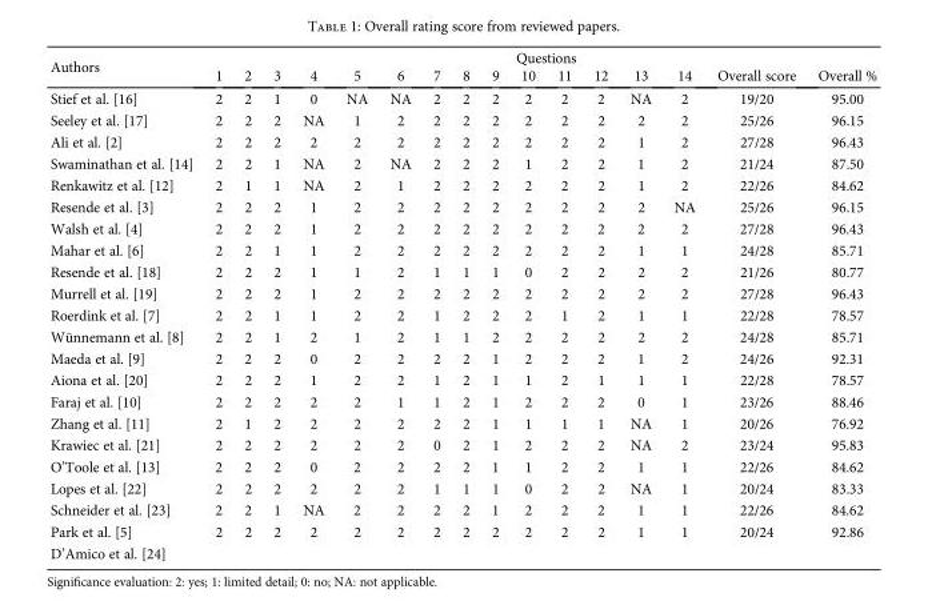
<table><thead><tr><td rowspan="2">Authors</td><td colspan="16">Questions</td></tr><tr><td>1</td><td>2</td><td>3</td><td>4</td><td>5</td><td>6</td><td>7</td><td>8</td><td>9</td><td>10</td><td>11</td><td>12</td><td>13</td><td>14</td><td>Overall score</td><td>Overall %</td></tr></thead><tbody><tr><td>Stief et al. [16]</td><td>2</td><td>2</td><td>1</td><td>0</td><td>NA</td><td>NA</td><td>2</td><td>2</td><td>2</td><td>2</td><td>2</td><td>2</td><td>NA</td><td>2</td><td>19/20</td><td>95.00</td></tr><tr><td>Seeley et al. [17]</td><td>2</td><td>2</td><td>2</td><td>NA</td><td>1</td><td>2</td><td>2</td><td>2</td><td>2</td><td>2</td><td>2</td><td>2</td><td>2</td><td>2</td><td>25/26</td><td>96.15</td></tr><tr><td>Ali et al. [2]</td><td>2</td><td>2</td><td>2</td><td>2</td><td>2</td><td>2</td><td>2</td><td>2</td><td>2</td><td>2</td><td>2</td><td>2</td><td>1</td><td>2</td><td>27/28</td><td>96.43</td></tr><tr><td>Swaminathan et al. [14]</td><td>2</td><td>2</td><td>1</td><td>NA</td><td>2</td><td>NA</td><td>2</td><td>2</td><td>2</td><td>1</td><td>2</td><td>2</td><td>1</td><td>2</td><td>21/24</td><td>87.50</td></tr><tr><td>Renkawitz et al. [12]</td><td>2</td><td>1</td><td>1</td><td>NA</td><td>2</td><td>1</td><td>2</td><td>2</td><td>2</td><td>2</td><td>2</td><td>2</td><td>1</td><td>2</td><td>22/26</td><td>84.62</td></tr><tr><td>Resende et al. [3]</td><td>2</td><td>2</td><td>2</td><td>1</td><td>2</td><td>2</td><td>2</td><td>2</td><td>2</td><td>2</td><td>2</td><td>2</td><td>2</td><td>NA</td><td>25/26</td><td>96.15</td></tr><tr><td>Walsh et al. [4]</td><td>2</td><td>2</td><td>2</td><td>1</td><td>2</td><td>2</td><td>2</td><td>2</td><td>2</td><td>2</td><td>2</td><td>2</td><td>2</td><td>2</td><td>27/28</td><td>96.43</td></tr><tr><td>Mahar et al. [6]</td><td>2</td><td>2</td><td>1</td><td>1</td><td>2</td><td>2</td><td>2</td><td>2</td><td>2</td><td>2</td><td>2</td><td>2</td><td>1</td><td>1</td><td>24/28</td><td>85.71</td></tr><tr><td>Resende et al. [18]</td><td>2</td><td>2</td><td>2</td><td>1</td><td>1</td><td>2</td><td>1</td><td>1</td><td>1</td><td>0</td><td>2</td><td>2</td><td>2</td><td>2</td><td>21/26</td><td>80.77</td></tr><tr><td>Murrell et al. [19]</td><td>2</td><td>2</td><td>2</td><td>1</td><td>2</td><td>2</td><td>2</td><td>2</td><td>2</td><td>2</td><td>2</td><td>2</td><td>2</td><td>2</td><td>27/28</td><td>96.43</td></tr><tr><td>Roerdink et al. [7]</td><td>2</td><td>2</td><td>1</td><td>1</td><td>2</td><td>2</td><td>1</td><td>2</td><td>2</td><td>2</td><td>1</td><td>2</td><td>1</td><td>1</td><td>22/28</td><td>78.57</td></tr><tr><td>Wünnemann et al. [8]</td><td>2</td><td>2</td><td>1</td><td>2</td><td>1</td><td>2</td><td>1</td><td>1</td><td>2</td><td>2</td><td>2</td><td>2</td><td>2</td><td>2</td><td>24/28</td><td>85.71</td></tr><tr><td>Maeda et al. [9]</td><td>2</td><td>2</td><td>2</td><td>0</td><td>2</td><td>2</td><td>2</td><td>2</td><td>1</td><td>2</td><td>2</td><td>2</td><td>1</td><td>2</td><td>24/26</td><td>92.31</td></tr><tr><td>Aiona et al. [20]</td><td>2</td><td>2</td><td>2</td><td>1</td><td>2</td><td>2</td><td>1</td><td>2</td><td>1</td><td>1</td><td>2</td><td>1</td><td>1</td><td>1</td><td>22/28</td><td>78.57</td></tr><tr><td>Faraj et al. [10]</td><td>2</td><td>2</td><td>2</td><td>2</td><td>2</td><td>1</td><td>1</td><td>2</td><td>1</td><td>2</td><td>2</td><td>2</td><td>0</td><td>1</td><td>23/26</td><td>88.46</td></tr><tr><td>Zhang et al. [11]</td><td>2</td><td>1</td><td>2</td><td>2</td><td>2</td><td>2</td><td>2</td><td>2</td><td>1</td><td>1</td><td>1</td><td>1</td><td>NA</td><td>1</td><td>20/26</td><td>76.92</td></tr><tr><td>Krawiec et al. [21]</td><td>2</td><td>2</td><td>2</td><td>2</td><td>2</td><td>2</td><td>0</td><td>2</td><td>1</td><td>2</td><td>2</td><td>2</td><td>NA</td><td>2</td><td>23/24</td><td>95.83</td></tr><tr><td>O’Toole et al. [13]</td><td>2</td><td>2</td><td>2</td><td>0</td><td>2</td><td>2</td><td>2</td><td>2</td><td>1</td><td>1</td><td>2</td><td>2</td><td>1</td><td>1</td><td>22/26</td><td>84.62</td></tr><tr><td>Lopes et al. [22]</td><td>2</td><td>2</td><td>2</td><td>2</td><td>2</td><td>2</td><td>1</td><td>1</td><td>1</td><td>0</td><td>2</td><td>2</td><td>NA</td><td>1</td><td>20/24</td><td>83.33</td></tr><tr><td>Schneider et al. [23]</td><td>2</td><td>2</td><td>1</td><td>NA</td><td>2</td><td>2</td><td>2</td><td>2</td><td>1</td><td>2</td><td>2</td><td>2</td><td>1</td><td>1</td><td>22/26</td><td>84.62</td></tr><tr><td>Park et al. [5]</td><td>2</td><td>2</td><td>2</td><td>2</td><td>2</td><td>2</td><td>2</td><td>2</td><td>2</td><td>2</td><td>2</td><td>2</td><td>1</td><td>1</td><td>20/24</td><td>92.86</td></tr><tr><td>D’Amico et al. [24]</td><td></td><td></td><td></td><td></td><td></td><td></td><td></td><td></td><td></td><td></td><td></td><td></td><td></td><td></td><td></td><td></td></tr></tbody></table>